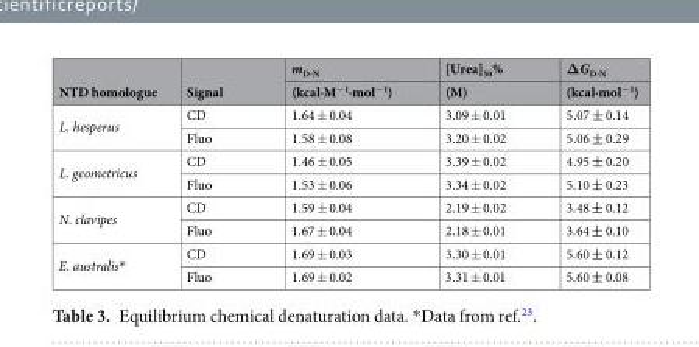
<table><thead><tr><td rowspan="2">NTD homologue</td><td rowspan="2">Signal</td><td rowspan="2">m<sub>D-N</sub> (kcal·M<sup>−1</sup>·mol<sup>−1</sup>)</td><td rowspan="2">[Urea]<sub>50</sub>% (M)</td><td rowspan="2">ΔG<sub>D-N</sub> (kcal·mol<sup>−1</sup>)</td></tr><tr></tr></thead><tbody><tr><td rowspan="2">L. hesperus</td><td>CD</td><td>1.64 ± 0.04</td><td>3.09 ± 0.01</td><td>5.07 ± 0.14</td></tr><tr><td>Fluo</td><td>1.58 ± 0.08</td><td>3.20 ± 0.02</td><td>5.06 ± 0.29</td></tr><tr><td rowspan="2">L. geometricus</td><td>CD</td><td>1.46 ± 0.05</td><td>3.39 ± 0.02</td><td>4.95 ± 0.20</td></tr><tr><td>Fluo</td><td>1.53 ± 0.06</td><td>3.34 ± 0.02</td><td>5.10 ± 0.23</td></tr><tr><td rowspan="2">N. clavipes</td><td>CD</td><td>1.59 ± 0.04</td><td>2.19 ± 0.02</td><td>3.48 ± 0.12</td></tr><tr><td>Fluo</td><td>1.67 ± 0.04</td><td>2.18 ± 0.01</td><td>3.64 ± 0.10</td></tr><tr><td rowspan="2">E. australis*</td><td>CD</td><td>1.69 ± 0.03</td><td>3.30 ± 0.01</td><td>5.60 ± 0.12</td></tr><tr><td>Fluo</td><td>1.69 ± 0.02</td><td>3.31 ± 0.01</td><td>5.60 ± 0.08</td></tr></tbody></table>